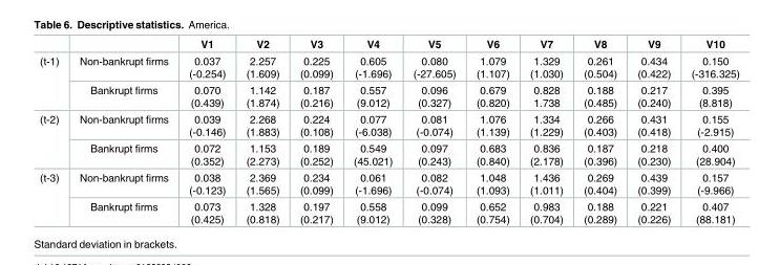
<table><thead><tr><td></td><td></td><td>V1</td><td>V2</td><td>V3</td><td>V4</td><td>V5</td><td>V6</td><td>V7</td><td>V8</td><td>V9</td><td>V10</td></tr></thead><tbody><tr><td rowspan="2">(t-1)</td><td>Non-bankrupt firms</td><td>0.037 (-0.254)</td><td>2.257 (1.609)</td><td>0.225 (0.099)</td><td>0.605 (-1.696)</td><td>0.080 (-27.605)</td><td>1.079 (1.107)</td><td>1.329 (1.030)</td><td>0.261 (0.504)</td><td>0.434 (0.422)</td><td>0.150 (-316.325)</td></tr><tr><td>Bankrupt firms</td><td>0.070 (0.439)</td><td>1.142 (1.874)</td><td>0.187 (0.216)</td><td>0.557 (9.012)</td><td>0.096 (0.327)</td><td>0.679 (0.820)</td><td>0.828 1.738</td><td>0.188 (0.485)</td><td>0.217 (0.240)</td><td>0.395 (8.818)</td></tr><tr><td rowspan="2">(t-2)</td><td>Non-bankrupt firms</td><td>0.039 (-0.146)</td><td>2.268 (1.883)</td><td>0.224 (0.108)</td><td>0.077 (-6.038)</td><td>0.081 (-0.074)</td><td>1.076 (1.139)</td><td>1.334 (1.229)</td><td>0.266 (0.403)</td><td>0.431 (0.418)</td><td>0.155 (-2.915)</td></tr><tr><td>Bankrupt firms</td><td>0.072 (0.352)</td><td>1.153 (2.273)</td><td>0.189 (0.252)</td><td>0.549 (45.021)</td><td>0.097 (0.243)</td><td>0.683 (0.840)</td><td>0.836 (2.178)</td><td>0.187 (0.396)</td><td>0.218 (0.230)</td><td>0.400 (28.904)</td></tr><tr><td rowspan="2">(t-3)</td><td>Non-bankrupt firms</td><td>0.038 (-0.123)</td><td>2.369 (1.565)</td><td>0.234 (0.099)</td><td>0.061 (-1.696)</td><td>0.082 (-0.074)</td><td>1.048 (1.093)</td><td>1.436 (1.011)</td><td>0.269 (0.404)</td><td>0.439 (0.399)</td><td>0.157 (-9.966)</td></tr><tr><td>Bankrupt firms</td><td>0.073 (0.425)</td><td>1.328 (0.818)</td><td>0.197 (0.217)</td><td>0.558 (9.012)</td><td>0.099 (0.328)</td><td>0.652 (0.754)</td><td>0.983 (0.704)</td><td>0.188 (0.289)</td><td>0.221 (0.226)</td><td>0.407 (88.181)</td></tr></tbody></table>